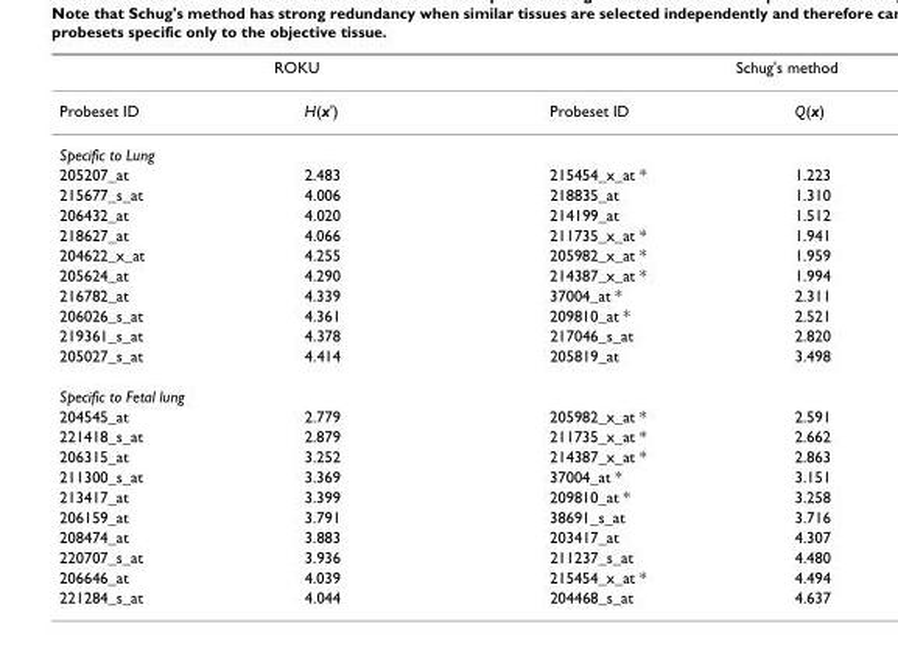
<table><thead><tr><td colspan="2">ROKU</td><td colspan="2">Schug&#x27;s method</td></tr><tr><td>Probeset ID</td><td>H(x&#x27;)</td><td>Probeset ID</td><td>Q(x)</td></tr></thead><tbody><tr><td colspan="4">Specific to Lung</td></tr><tr><td>205207_at</td><td>2.483</td><td>215454_x_at *</td><td>1.223</td></tr><tr><td>215677_s_at</td><td>4.006</td><td>218835_at</td><td>1.310</td></tr><tr><td>206432_at</td><td>4.020</td><td>214199_at</td><td>1.512</td></tr><tr><td>218627_at</td><td>4.066</td><td>211735_x_at *</td><td>1.941</td></tr><tr><td>204622_x_at</td><td>4.255</td><td>205982_x_at *</td><td>1.959</td></tr><tr><td>205624_at</td><td>4.290</td><td>214387_x_at *</td><td>1.994</td></tr><tr><td>216782_at</td><td>4.339</td><td>37004_at *</td><td>2.311</td></tr><tr><td>206026_s_at</td><td>4.361</td><td>209810_at *</td><td>2.521</td></tr><tr><td>219361_s_at</td><td>4.378</td><td>217046_s_at</td><td>2.820</td></tr><tr><td>205027_s_at</td><td>4.414</td><td>205819_at</td><td>3.498</td></tr><tr><td colspan="4">Specific to Fetal lung</td></tr><tr><td>204545_at</td><td>2.779</td><td>205982_x_at *</td><td>2.591</td></tr><tr><td>221418_s_at</td><td>2.879</td><td>211735_x_at *</td><td>2.662</td></tr><tr><td>206315_at</td><td>3.252</td><td>214387_x_at *</td><td>2.863</td></tr><tr><td>211300_s_at</td><td>3.369</td><td>37004_at *</td><td>3.151</td></tr><tr><td>213417_at</td><td>3.399</td><td>209810_at *</td><td>3.258</td></tr><tr><td>206159_at</td><td>3.791</td><td>38691_s_at</td><td>3.716</td></tr><tr><td>208474_at</td><td>3.883</td><td>203417_at</td><td>4.307</td></tr><tr><td>220707_s_at</td><td>3.936</td><td>211237_s_at</td><td>4.480</td></tr><tr><td>206646_at</td><td>4.039</td><td>215454_x_at *</td><td>4.494</td></tr><tr><td>221284_s_at</td><td>4.044</td><td>204468_s_at</td><td>4.637</td></tr></tbody></table>